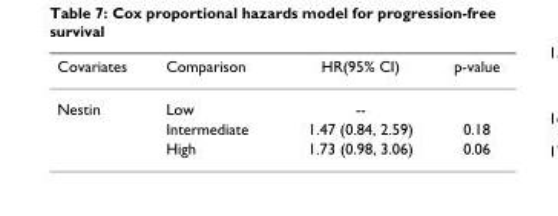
<table><thead><tr><td>Covariates</td><td>Comparison</td><td>HR(95% CI)</td><td>p-value</td></tr></thead><tbody><tr><td rowspan="3">Nestin</td><td>Low</td><td>--</td><td></td></tr><tr><td>Intermediate</td><td>1.47 (0.84, 2.59)</td><td>0.18</td></tr><tr><td>High</td><td>1.73 (0.98, 3.06)</td><td>0.06</td></tr></tbody></table>